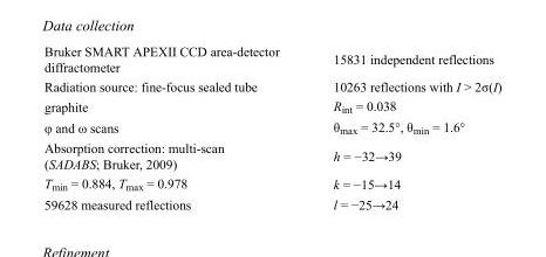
<table><tbody><tr><td>Bruker SMART APEXII CCD area-detector diffractometer</td><td>15831 independent reflections</td></tr><tr><td>Radiation source: fine-focus sealed tube</td><td>10263 reflections with I &gt; 2σ(I)</td></tr><tr><td>graphite</td><td>R<sub>int</sub> = 0.038</td></tr><tr><td>φ and ω scans</td><td>θ<sub>max</sub> = 32.5°, θ<sub>min</sub> = 1.6°</td></tr><tr><td>Absorption correction: multi-scan (SADABS; Bruker, 2009)</td><td>h = −32→39</td></tr><tr><td>T<sub>min</sub> = 0.884, T<sub>max</sub> = 0.978</td><td>k = −15→14</td></tr><tr><td>59628 measured reflections</td><td>l = −25→24</td></tr></tbody></table>